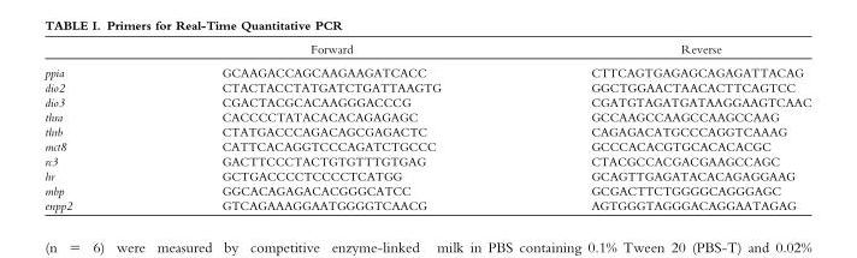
<table><thead><tr><td></td><td>Forward</td><td>Reverse</td></tr></thead><tbody><tr><td>ppia</td><td>GCAAGACCAGCAAGAAGATCACC</td><td>CTTCAGTGAGAGCAGAGATTACAG</td></tr><tr><td>dio2</td><td>CTACTACCTATGATCTGATTAAGTG</td><td>GGCTGGAACTAACACTTCAGTCC</td></tr><tr><td>dio3</td><td>CGACTACGCACAAGGGACCCG</td><td>CGATGTAGATGATAAGGAAGTCAAC</td></tr><tr><td>thra</td><td>CACCCCTATACACACAGAGAGC</td><td>GCCAAGCCAAGCCAAGCCAAG</td></tr><tr><td>thrb</td><td>CTATGACCCAGACAGCGAGACTC</td><td>CAGAGACATGCCCAGGTCAAAG</td></tr><tr><td>mct8</td><td>CATTCACAGGTCCCAGATCTGCCC</td><td>GCCCACACGTGCACACACGC</td></tr><tr><td>rc3</td><td>GACTTCCCTACTGTGTTTGTGAG</td><td>CTACGCCACGACGAAGCCAGC</td></tr><tr><td>hr</td><td>GCTGACCCCTCCCCTCATGG</td><td>GCAGTTGAGATACACAGAGGAAG</td></tr><tr><td>mbp</td><td>GGCACAGAGACACGGGCATCC</td><td>GCGACTTCTGGGGCAGGGAGC</td></tr><tr><td>enpp2</td><td>GTCAGAAAGGAATGGGGTCAACG</td><td>AGTGGGTAGGGACAGGAATAGAG</td></tr></tbody></table>